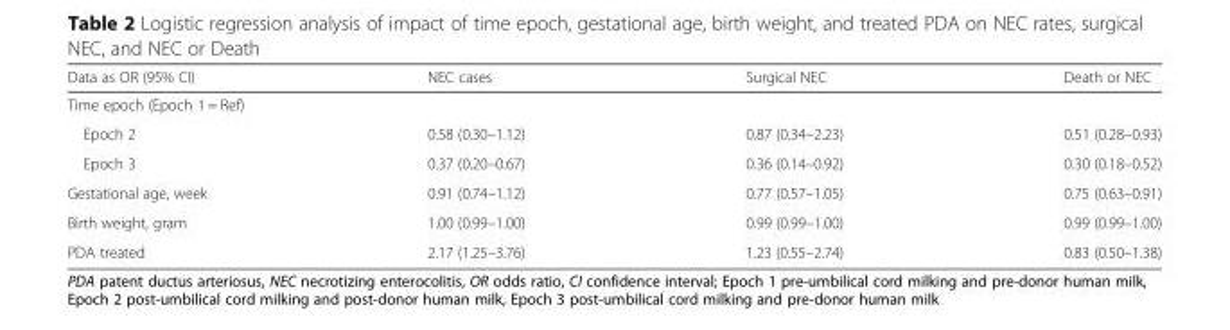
<table><thead><tr><td>Data as OR (95% CI)</td><td>NEC cases</td><td>Surgical NEC</td><td>Death or NEC</td></tr></thead><tbody><tr><td colspan="4">Time epoch (Epoch 1 = Ref)</td></tr><tr><td>Epoch 2</td><td>0.58 (0.30–1.12)</td><td>0.87 (0.34–2.23)</td><td>0.51 (0.28–0.93)</td></tr><tr><td>Epoch 3</td><td>0.37 (0.20–0.67)</td><td>0.36 (0.14–0.92)</td><td>0.30 (0.18–0.52)</td></tr><tr><td>Gestational age, week</td><td>0.91 (0.74–1.12)</td><td>0.77 (0.57–1.05)</td><td>0.75 (0.63–0.91)</td></tr><tr><td>Birth weight, gram</td><td>1.00 (0.99–1.00)</td><td>0.99 (0.99–1.00)</td><td>0.99 (0.99–1.00)</td></tr><tr><td>PDA treated</td><td>2.17 (1.25–3.76)</td><td>1.23 (0.55–2.74)</td><td>0.83 (0.50–1.38)</td></tr></tbody></table>